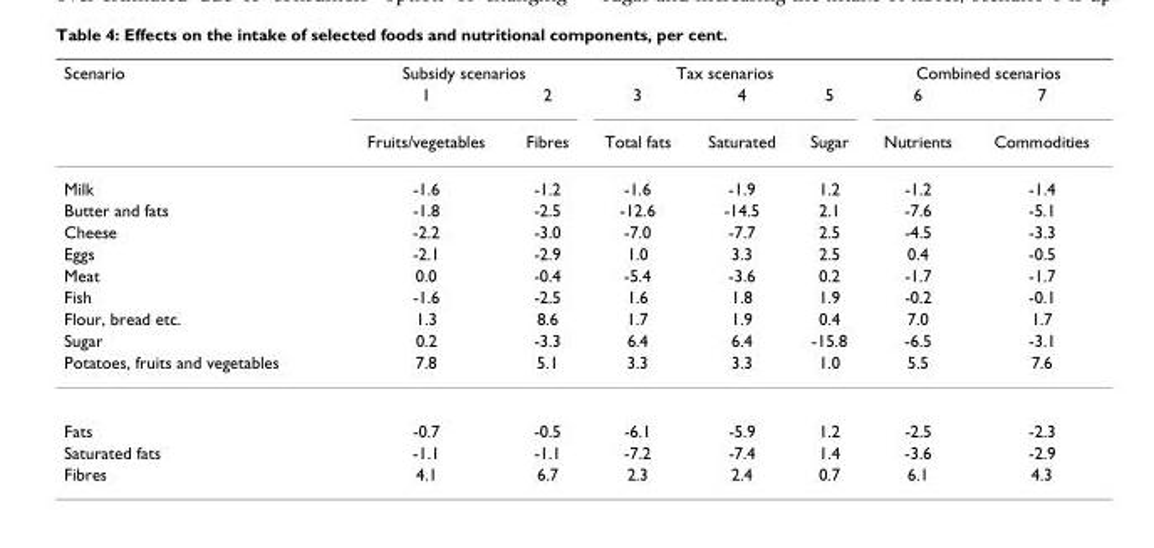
<table><thead><tr><td rowspan="3">Scenario</td><td colspan="2">Subsidy scenarios</td><td colspan="3">Tax scenarios</td><td colspan="2">Combined scenarios</td></tr><tr><td rowspan="2">1 Fruits/vegetables</td><td rowspan="2">2 Fibres</td><td rowspan="2">3 Total fats</td><td rowspan="2">4 Saturated</td><td rowspan="2">5 Sugar</td><td rowspan="2">6 Nutrients</td><td rowspan="2">7 Commodities</td></tr><tr></tr></thead><tbody><tr><td>Milk</td><td>-1.6</td><td>-1.2</td><td>-1.6</td><td>-1.9</td><td>1.2</td><td>-1.2</td><td>-1.4</td></tr><tr><td>Butter and fats</td><td>-1.8</td><td>-2.5</td><td>-12.6</td><td>-14.5</td><td>2.1</td><td>-7.6</td><td>-5.1</td></tr><tr><td>Cheese</td><td>-2.2</td><td>-3.0</td><td>-7.0</td><td>-7.7</td><td>2.5</td><td>-4.5</td><td>-3.3</td></tr><tr><td>Eggs</td><td>-2.1</td><td>-2.9</td><td>1.0</td><td>3.3</td><td>2.5</td><td>0.4</td><td>-0.5</td></tr><tr><td>Meat</td><td>0.0</td><td>-0.4</td><td>-5.4</td><td>-3.6</td><td>0.2</td><td>-1.7</td><td>-1.7</td></tr><tr><td>Fish</td><td>-1.6</td><td>-2.5</td><td>1.6</td><td>1.8</td><td>1.9</td><td>-0.2</td><td>-0.1</td></tr><tr><td>Flour, bread etc.</td><td>1.3</td><td>8.6</td><td>1.7</td><td>1.9</td><td>0.4</td><td>7.0</td><td>1.7</td></tr><tr><td>Sugar</td><td>0.2</td><td>-3.3</td><td>6.4</td><td>6.4</td><td>-15.8</td><td>-6.5</td><td>-3.1</td></tr><tr><td>Potatoes, fruits and vegetables</td><td>7.8</td><td>5.1</td><td>3.3</td><td>3.3</td><td>1.0</td><td>5.5</td><td>7.6</td></tr><tr><td>Fats</td><td>-0.7</td><td>-0.5</td><td>-6.1</td><td>-5.9</td><td>1.2</td><td>-2.5</td><td>-2.3</td></tr><tr><td>Saturated fats</td><td>-1.1</td><td>-1.1</td><td>-7.2</td><td>-7.4</td><td>1.4</td><td>-3.6</td><td>-2.9</td></tr><tr><td>Fibres</td><td>4.1</td><td>6.7</td><td>2.3</td><td>2.4</td><td>0.7</td><td>6.1</td><td>4.3</td></tr></tbody></table>